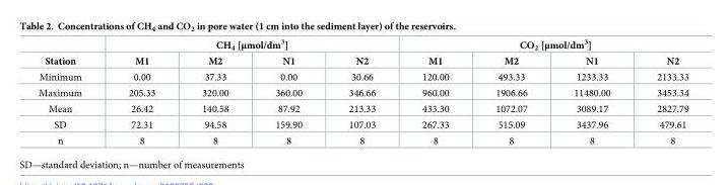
<table><thead><tr><td rowspan="2">Station</td><td colspan="4">CH<sub>4</sub> [μmol/dm<sup>3</sup>]</td><td colspan="4">CO<sub>2</sub> [μmol/dm<sup>3</sup>]</td></tr><tr><td>M1</td><td>M2</td><td>N1</td><td>N2</td><td>M1</td><td>M2</td><td>N1</td><td>N2</td></tr></thead><tbody><tr><td>Minimum</td><td>0.00</td><td>37.33</td><td>0.00</td><td>30.66</td><td>120.00</td><td>493.33</td><td>1233.33</td><td>2133.33</td></tr><tr><td>Maximum</td><td>205.33</td><td>320.00</td><td>360.00</td><td>346.66</td><td>960.00</td><td>1906.66</td><td>11480.00</td><td>3453.34</td></tr><tr><td>Mean</td><td>26.42</td><td>140.58</td><td>87.92</td><td>213.33</td><td>433.30</td><td>1072.07</td><td>3089.17</td><td>2827.79</td></tr><tr><td>SD</td><td>72.31</td><td>94.58</td><td>159.90</td><td>107.03</td><td>267.33</td><td>515.09</td><td>3437.96</td><td>479.61</td></tr><tr><td>n</td><td>8</td><td>8</td><td>8</td><td>8</td><td>8</td><td>8</td><td>8</td><td>8</td></tr></tbody></table>